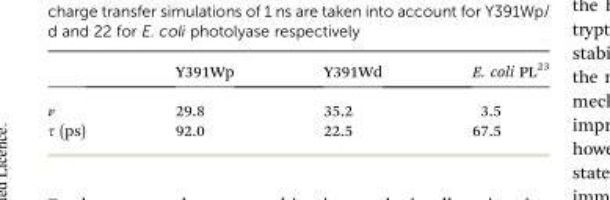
<table><thead><tr><td></td><td>Y391Wp</td><td>Y391Wd</td><td>E. coli PL<sup>23</sup></td></tr></thead><tbody><tr><td></td><td>29.8</td><td>35.2</td><td>3.5</td></tr><tr><td>(ps)</td><td>92.0</td><td>22.5</td><td>67.5</td></tr></tbody></table>